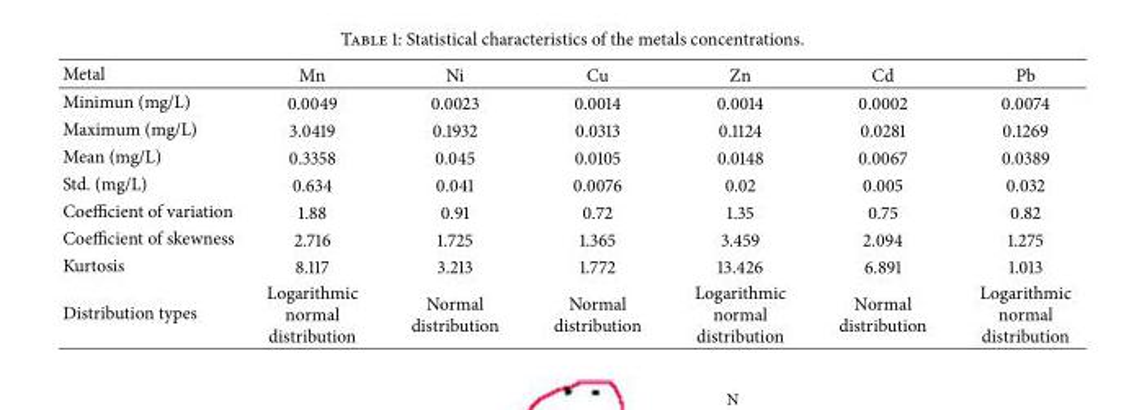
<table><thead><tr><td>Metal</td><td>Mn</td><td>Ni</td><td>Cu</td><td>Zn</td><td>Cd</td><td>Pb</td></tr></thead><tbody><tr><td>Minimun (mg/L)</td><td>0.0049</td><td>0.0023</td><td>0.0014</td><td>0.0014</td><td>0.0002</td><td>0.0074</td></tr><tr><td>Maximum (mg/L)</td><td>3.0419</td><td>0.1932</td><td>0.0313</td><td>0.1124</td><td>0.0281</td><td>0.1269</td></tr><tr><td>Mean (mg/L)</td><td>0.3358</td><td>0.045</td><td>0.0105</td><td>0.0148</td><td>0.0067</td><td>0.0389</td></tr><tr><td>Std. (mg/L)</td><td>0.634</td><td>0.041</td><td>0.0076</td><td>0.02</td><td>0.005</td><td>0.032</td></tr><tr><td>Coefficient of variation</td><td>1.88</td><td>0.91</td><td>0.72</td><td>1.35</td><td>0.75</td><td>0.82</td></tr><tr><td>Coefficient of skewness</td><td>2.716</td><td>1.725</td><td>1.365</td><td>3.459</td><td>2.094</td><td>1.275</td></tr><tr><td>Kurtosis</td><td>8.117</td><td>3.213</td><td>1.772</td><td>13.426</td><td>6.891</td><td>1.013</td></tr><tr><td>Distribution types</td><td>Logarithmic normal distribution</td><td>Normal distribution</td><td>Normal distribution</td><td>Logarithmic normal distribution</td><td>Normal distribution</td><td>Logarithmic normal distribution</td></tr></tbody></table>